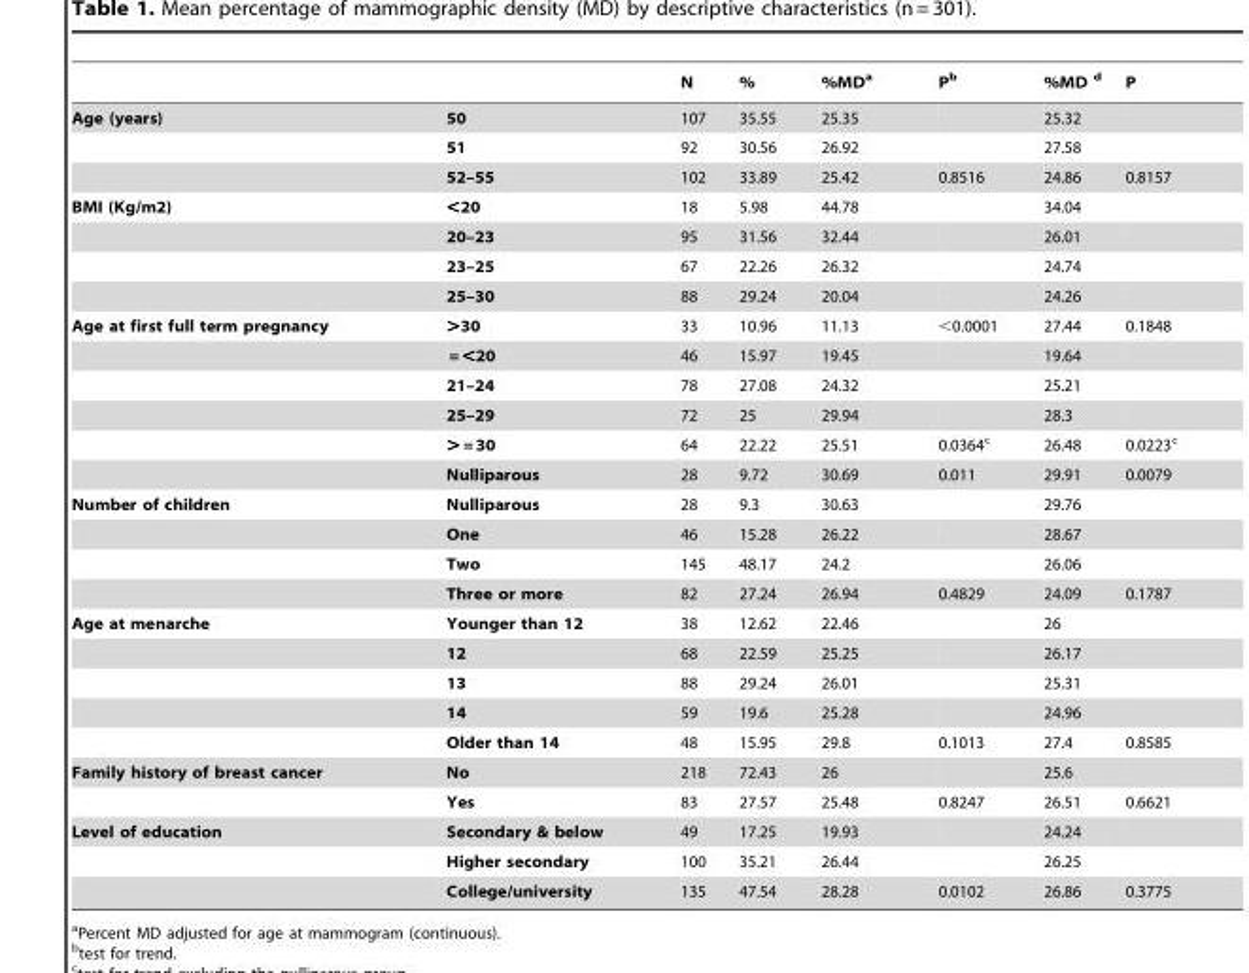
<table><thead><tr><td></td><td></td><td>N</td><td>%</td><td>%MD<sup>a</sup></td><td>P<sup>b</sup></td><td>%MD d</td><td>P</td></tr></thead><tbody><tr><td rowspan="3">Age (years)</td><td>50</td><td>107</td><td>35.55</td><td>25.35</td><td></td><td>25.32</td><td></td></tr><tr><td>51</td><td>92</td><td>30.56</td><td>26.92</td><td></td><td>27.58</td><td></td></tr><tr><td>52–55</td><td>102</td><td>33.89</td><td>25.42</td><td>0.8516</td><td>24.86</td><td>0.8157</td></tr><tr><td rowspan="4">BMI (Kg/m2)</td><td>&lt;20</td><td>18</td><td>5.98</td><td>44.78</td><td></td><td>34.04</td><td></td></tr><tr><td>20–23</td><td>95</td><td>31.56</td><td>32.44</td><td></td><td>26.01</td><td></td></tr><tr><td>23–25</td><td>67</td><td>22.26</td><td>26.32</td><td></td><td>24.74</td><td></td></tr><tr><td>25–30</td><td>88</td><td>29.24</td><td>20.04</td><td></td><td>24.26</td><td></td></tr><tr><td rowspan="6">Age at first full term pregnancy</td><td>&gt;30</td><td>33</td><td>10.96</td><td>11.13</td><td>&lt;0.0001</td><td>27.44</td><td>0.1848</td></tr><tr><td>= &lt;20</td><td>46</td><td>15.97</td><td>19.45</td><td></td><td>19.64</td><td></td></tr><tr><td>21–24</td><td>78</td><td>27.08</td><td>24.32</td><td></td><td>25.21</td><td></td></tr><tr><td>25–29</td><td>72</td><td>25</td><td>29.94</td><td></td><td>28.3</td><td></td></tr><tr><td>&gt; = 30</td><td>64</td><td>22.22</td><td>25.51</td><td>0.0364<sup>c</sup></td><td>26.48</td><td>0.0223<sup>c</sup></td></tr><tr><td>Nulliparous</td><td>28</td><td>9.72</td><td>30.69</td><td>0.011</td><td>29.91</td><td>0.0079</td></tr><tr><td rowspan="4">Number of children</td><td>Nulliparous</td><td>28</td><td>9.3</td><td>30.63</td><td></td><td>29.76</td><td></td></tr><tr><td>One</td><td>46</td><td>15.28</td><td>26.22</td><td></td><td>28.67</td><td></td></tr><tr><td>Two</td><td>145</td><td>48.17</td><td>24.2</td><td></td><td>26.06</td><td></td></tr><tr><td>Three or more</td><td>82</td><td>27.24</td><td>26.94</td><td>0.4829</td><td>24.09</td><td>0.1787</td></tr><tr><td rowspan="5">Age at menarche</td><td>Younger than 12</td><td>38</td><td>12.62</td><td>22.46</td><td></td><td>26</td><td></td></tr><tr><td>12</td><td>68</td><td>22.59</td><td>25.25</td><td></td><td>26.17</td><td></td></tr><tr><td>13</td><td>88</td><td>29.24</td><td>26.01</td><td></td><td>25.31</td><td></td></tr><tr><td>14</td><td>59</td><td>19.6</td><td>25.28</td><td></td><td>24.96</td><td></td></tr><tr><td>Older than 14</td><td>48</td><td>15.95</td><td>29.8</td><td>0.1013</td><td>27.4</td><td>0.8585</td></tr><tr><td rowspan="2">Family history of breast cancer</td><td>No</td><td>218</td><td>72.43</td><td>26</td><td></td><td>25.6</td><td></td></tr><tr><td>Yes</td><td>83</td><td>27.57</td><td>25.48</td><td>0.8247</td><td>26.51</td><td>0.6621</td></tr><tr><td rowspan="3">Level of education</td><td>Secondary &amp; below</td><td>49</td><td>17.25</td><td>19.93</td><td></td><td>24.24</td><td></td></tr><tr><td>Higher secondary</td><td>100</td><td>35.21</td><td>26.44</td><td></td><td>26.25</td><td></td></tr><tr><td>College/university</td><td>135</td><td>47.54</td><td>28.28</td><td>0.0102</td><td>26.86</td><td>0.3775</td></tr></tbody></table>